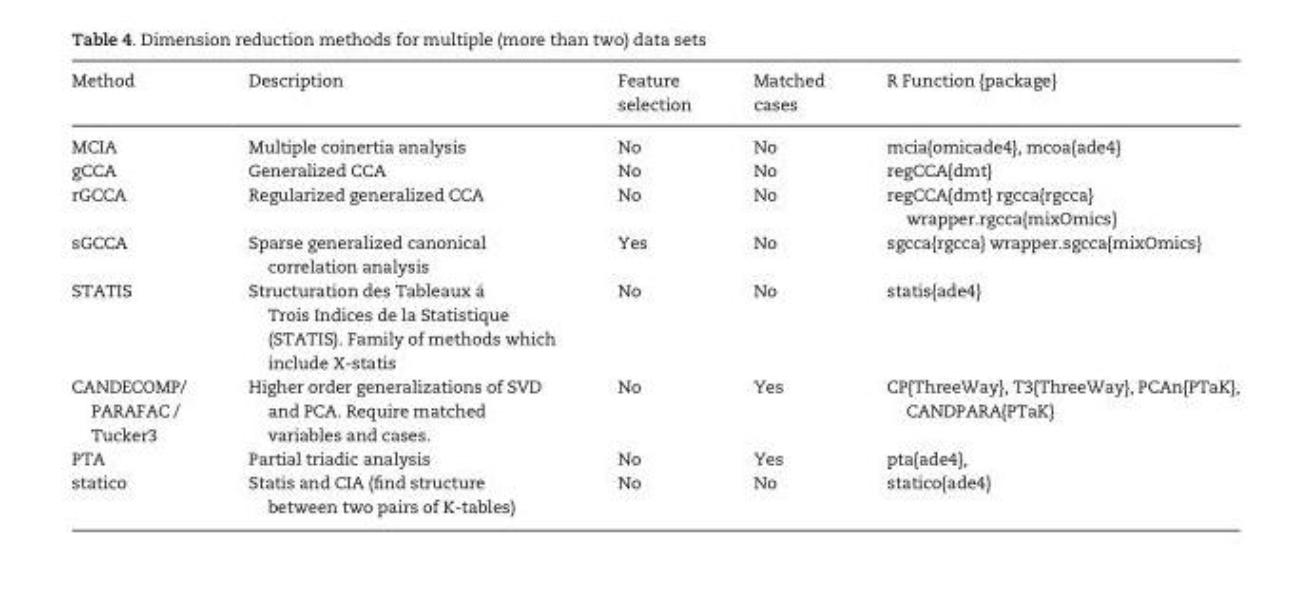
<table><thead><tr><td>Method</td><td>Description</td><td>Feature selection</td><td>Matched cases</td><td>R Function {package}</td></tr></thead><tbody><tr><td>MCIA</td><td>Multiple coinertia analysis</td><td>No</td><td>No</td><td>mcia{omicade4}, mcoa{ade4}</td></tr><tr><td>gCCA</td><td>Generalized CCA</td><td>No</td><td>No</td><td>regCCA{dmt}</td></tr><tr><td>rGCCA</td><td>Regularized generalized CCA</td><td>No</td><td>No</td><td>regCCA{dmt} rgcca{rgcca} wrapper.rgcca{mixOmics}</td></tr><tr><td>sGCCA</td><td>Sparse generalized canonical correlation analysis</td><td>Yes</td><td>No</td><td>sgcca{rgcca} wrapper.sgcca{mixOmics}</td></tr><tr><td>STATIS</td><td>Structuration des Tableaux �a Trois Indices de la Statistique (STATIS). Family of methods which include X-statis</td><td>No</td><td>No</td><td>statis{ade4}</td></tr><tr><td>CANDECOMP/ PARAFAC / Tucker3</td><td>Higher order generalizations of SVD and PCA. Require matched variables and cases.</td><td>No</td><td>Yes</td><td>CP{ThreeWay}, T3{ThreeWay}, PCAn{PTaK}, CANDPARA{PTaK}</td></tr><tr><td>PTA</td><td>Partial triadic analysis</td><td>No</td><td>Yes</td><td>pta{ade4},</td></tr><tr><td>statico</td><td>Statis and CIA (find structure between two pairs of K-tables)</td><td>No</td><td>No</td><td>statico{ade4}</td></tr></tbody></table>